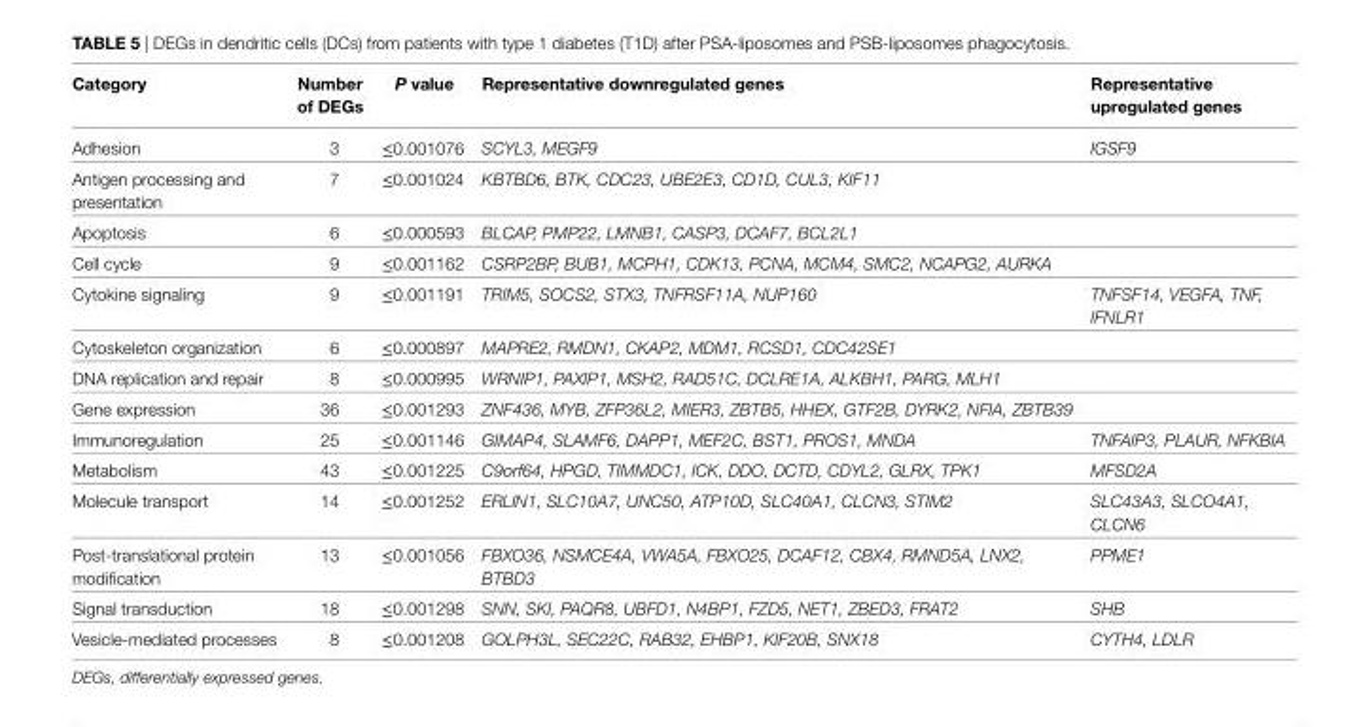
<table><thead><tr><td>category</td><td>number of Degs</td><td>P value</td><td>representative downregulated genes</td><td>representative upregulated genes</td></tr></thead><tbody><tr><td>Adhesion</td><td>3</td><td>≤0.001076</td><td>SCYL3, MEGF9</td><td>IGSF9</td></tr><tr><td>Antigen processing and presentation</td><td>7</td><td>≤0.001024</td><td>KBTBD6, BTK, CDC23, UBE2E3, CD1D, CUL3, KIF11</td><td></td></tr><tr><td>Apoptosis</td><td>6</td><td>≤0.000593</td><td>BLCAP, PMP22, LMNB1, CASP3, DCAF7, BCL2L1</td><td></td></tr><tr><td>Cell cycle</td><td>9</td><td>≤0.001162</td><td>CSRP2BP, BUB1, MCPH1, CDK13, PCNA, MCM4, SMC2, NCAPG2, AURKA</td><td></td></tr><tr><td>Cytokine signaling</td><td>9</td><td>≤0.001191</td><td>TRIM5, SOCS2, STX3, TNFRSF11A, NUP160</td><td>TNFSF14, VEGFA, TNF, IFNLR1</td></tr><tr><td>Cytoskeleton organization</td><td>6</td><td>≤0.000897</td><td>MAPRE2, RMDN1, CKAP2, MDM1, RCSD1, CDC42SE1</td><td></td></tr><tr><td>DNA replication and repair</td><td>8</td><td>≤0.000995</td><td>WRNIP1, PAXIP1, MSH2, RAD51C, DCLRE1A, ALKBH1, PARG, MLH1</td><td></td></tr><tr><td>Gene expression</td><td>36</td><td>≤0.001293</td><td>ZNF436, MYB, ZFP36L2, MIER3, ZBTB5, HHEX, GTF2B, DYRK2, NFIA, ZBTB39</td><td></td></tr><tr><td>Immunoregulation</td><td>25</td><td>≤0.001146</td><td>GIMAP4, SLAMF6, DAPP1, MEF2C, BST1, PROS1, MNDA</td><td>TNFAIP3, PLAUR, NFKBIA</td></tr><tr><td>Metabolism</td><td>43</td><td>≤0.001225</td><td>C9orf64, HPGD, TIMMDC1, ICK, DDO, DCTD, CDYL2, GLRX, TPK1</td><td>MFSD2A</td></tr><tr><td>Molecule transport</td><td>14</td><td>≤0.001252</td><td>ERLIN1, SLC10A7, UNC50, ATP10D, SLC40A1, CLCN3, STIM2</td><td>SLC43A3, SLCO4A1, CLCN6</td></tr><tr><td>Post-translational protein modification</td><td>13</td><td>≤0.001056</td><td>FBXO36, NSMCE4A, VWA5A, FBXO25, DCAF12, CBX4, RMND5A, LNX2, BTBD3</td><td>PPME1</td></tr><tr><td>Signal transduction</td><td>18</td><td>≤0.001298</td><td>SNN, SKI, PAQR8, UBFD1, N4BP1, FZD5, NET1, ZBED3, FRAT2</td><td>SHB</td></tr><tr><td>Vesicle-mediated processes</td><td>8</td><td>≤0.001208</td><td>GOLPH3L, SEC22C, RAB32, EHBP1, KIF20B, SNX18</td><td>CYTH4, LDLR</td></tr></tbody></table>